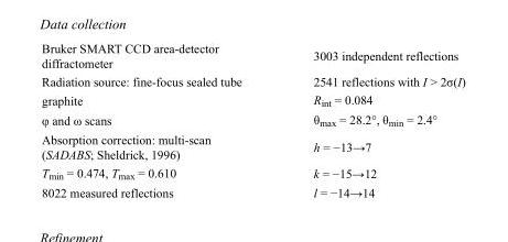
<table><tbody><tr><td>Bruker SMART CCD area-detector diffractometer</td><td>3003 independent reflections</td></tr><tr><td>Radiation source: fine-focus sealed tube</td><td>2541 reflections with I &gt; 2σ(I)</td></tr><tr><td>graphite</td><td>R<sub>int</sub> = 0.084</td></tr><tr><td>φ and ω scans</td><td>θ<sub>max</sub> = 28.2°, θ<sub>min</sub> = 2.4°</td></tr><tr><td>Absorption correction: multi-scan (SADABS; Sheldrick, 1996)</td><td>h = −13→7</td></tr><tr><td>T<sub>min</sub> = 0.474, T<sub>max</sub> = 0.610</td><td>k = −15→12</td></tr><tr><td>8022 measured reflections</td><td>l = −14→14</td></tr></tbody></table>